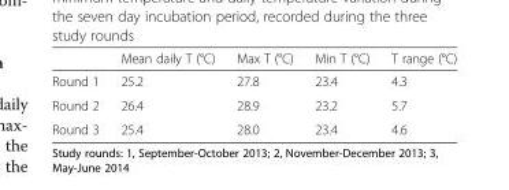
<table><thead><tr><td></td><td>Mean daily T (°C)</td><td>Max T (°C)</td><td>Min T (°C)</td><td>T range (°C)</td></tr></thead><tbody><tr><td>Round 1</td><td>25.2</td><td>27.8</td><td>23.4</td><td>4.3</td></tr><tr><td>Round 2</td><td>26.4</td><td>28.9</td><td>23.2</td><td>5.7</td></tr><tr><td>Round 3</td><td>25.4</td><td>28.0</td><td>23.4</td><td>4.6</td></tr></tbody></table>